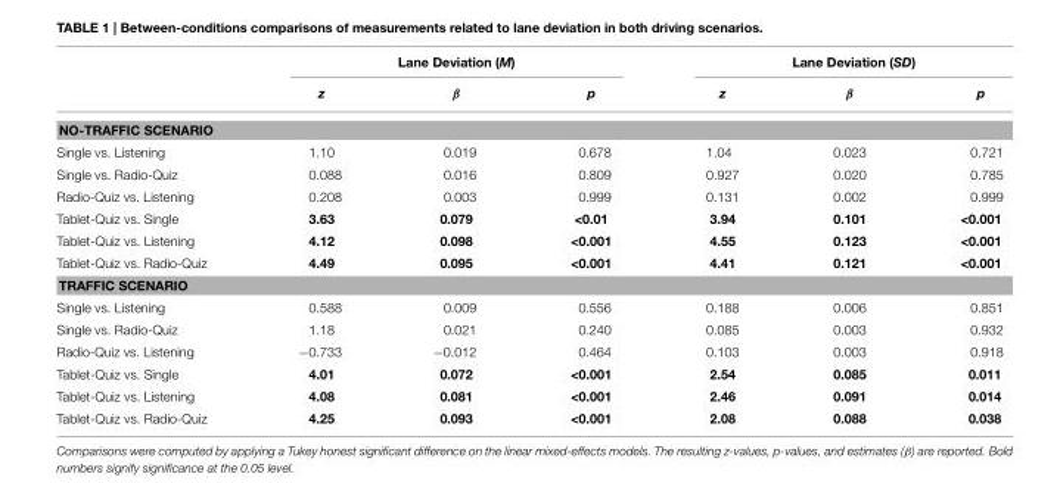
<table><thead><tr><td rowspan="2"></td><td colspan="3">Lane Deviation (M)</td><td colspan="3">Lane Deviation (SD)</td></tr><tr><td>z</td><td>β</td><td>p</td><td>z</td><td>β</td><td>p</td></tr></thead><tbody><tr><td colspan="7">NO-TRAFFIC SCENARIO</td></tr><tr><td>Single vs. Listening</td><td>1.10</td><td>0.019</td><td>0.678</td><td>1.04</td><td>0.023</td><td>0.721</td></tr><tr><td>Single vs. Radio-Quiz</td><td>0.088</td><td>0.016</td><td>0.809</td><td>0.927</td><td>0.020</td><td>0.785</td></tr><tr><td>Radio-Quiz vs. Listening</td><td>0.208</td><td>0.003</td><td>0.999</td><td>0.131</td><td>0.002</td><td>0.999</td></tr><tr><td>Tablet-Quiz vs. Single</td><td>3.63</td><td>0.079</td><td>&lt;0.01</td><td>3.94</td><td>0.101</td><td>&lt;0.001</td></tr><tr><td>Tablet-Quiz vs. Listening</td><td>4.12</td><td>0.098</td><td>&lt;0.001</td><td>4.55</td><td>0.123</td><td>&lt;0.001</td></tr><tr><td>Tablet-Quiz vs. Radio-Quiz</td><td>4.49</td><td>0.095</td><td>&lt;0.001</td><td>4.41</td><td>0.121</td><td>&lt;0.001</td></tr><tr><td colspan="7">TRAFFIC SCENARIO</td></tr><tr><td>Single vs. Listening</td><td>0.588</td><td>0.009</td><td>0.556</td><td>0.188</td><td>0.006</td><td>0.851</td></tr><tr><td>Single vs. Radio-Quiz</td><td>1.18</td><td>0.021</td><td>0.240</td><td>0.085</td><td>0.003</td><td>0.932</td></tr><tr><td>Radio-Quiz vs. Listening</td><td>−0.733</td><td>−0.012</td><td>0.464</td><td>0.103</td><td>0.003</td><td>0.918</td></tr><tr><td>Tablet-Quiz vs. Single</td><td>4.01</td><td>0.072</td><td>&lt;0.001</td><td>2.54</td><td>0.085</td><td>0.011</td></tr><tr><td>Tablet-Quiz vs. Listening</td><td>4.08</td><td>0.081</td><td>&lt;0.001</td><td>2.46</td><td>0.091</td><td>0.014</td></tr><tr><td>Tablet-Quiz vs. Radio-Quiz</td><td>4.25</td><td>0.093</td><td>&lt;0.001</td><td>2.08</td><td>0.088</td><td>0.038</td></tr></tbody></table>